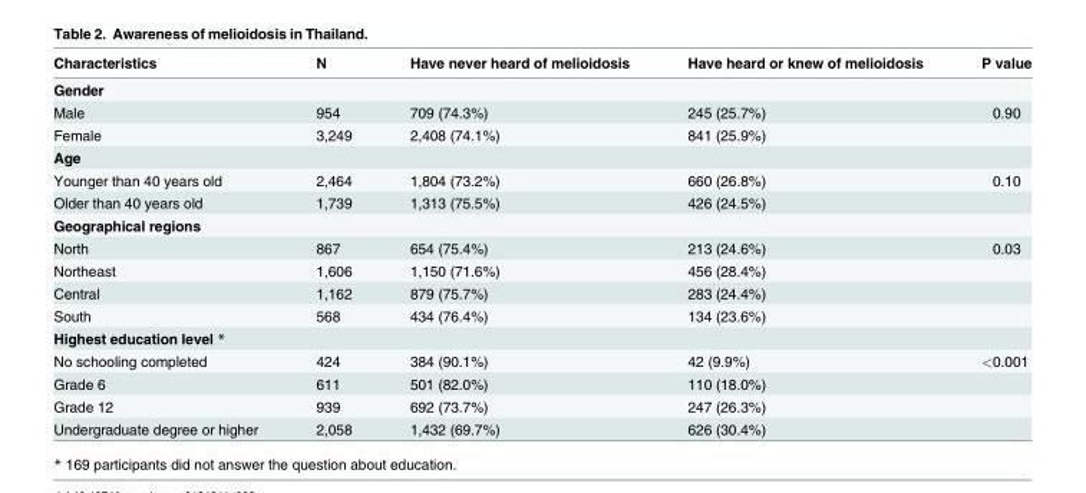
<table><thead><tr><td>Characteristics</td><td>N</td><td>Have never heard of melioidosis</td><td>Have heard or knew of melioidosis</td><td>P value</td></tr></thead><tbody><tr><td colspan="5">Gender</td></tr><tr><td>Male</td><td>954</td><td>709 (74.3%)</td><td>245 (25.7%)</td><td>0.90</td></tr><tr><td>Female</td><td>3,249</td><td>2,408 (74.1%)</td><td>841 (25.9%)</td><td></td></tr><tr><td colspan="5">Age</td></tr><tr><td>Younger than 40 years old</td><td>2,464</td><td>1,804 (73.2%)</td><td>660 (26.8%)</td><td>0.10</td></tr><tr><td>Older than 40 years old</td><td>1,739</td><td>1,313 (75.5%)</td><td>426 (24.5%)</td><td></td></tr><tr><td colspan="5">Geographical regions</td></tr><tr><td>North</td><td>867</td><td>654 (75.4%)</td><td>213 (24.6%)</td><td>0.03</td></tr><tr><td>Northeast</td><td>1,606</td><td>1,150 (71.6%)</td><td>456 (28.4%)</td><td></td></tr><tr><td>Central</td><td>1,162</td><td>879 (75.7%)</td><td>283 (24.4%)</td><td></td></tr><tr><td>South</td><td>568</td><td>434 (76.4%)</td><td>134 (23.6%)</td><td></td></tr><tr><td colspan="5">Highest education level *</td></tr><tr><td>No schooling completed</td><td>424</td><td>384 (90.1%)</td><td>42 (9.9%)</td><td>&lt;0.001</td></tr><tr><td>Grade 6</td><td>611</td><td>501 (82.0%)</td><td>110 (18.0%)</td><td></td></tr><tr><td>Grade 12</td><td>939</td><td>692 (73.7%)</td><td>247 (26.3%)</td><td></td></tr><tr><td>Undergraduate degree or higher</td><td>2,058</td><td>1,432 (69.7%)</td><td>626 (30.4%)</td><td></td></tr></tbody></table>